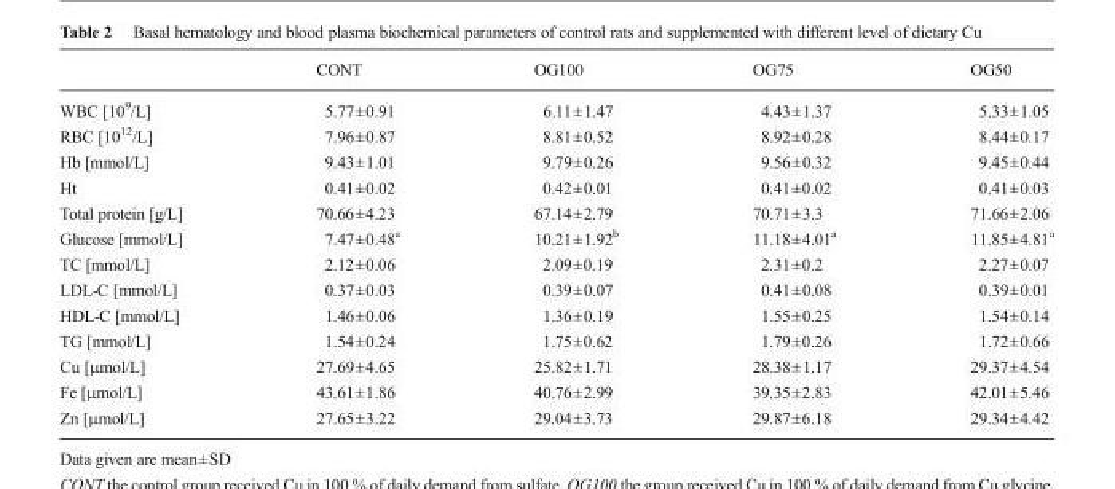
<table><thead><tr><td></td><td>CONT</td><td>OG100</td><td>OG75</td><td>OG50</td></tr></thead><tbody><tr><td>WBC [10<sup>9</sup>/L]</td><td>5.77±0.91</td><td>6.11±1.47</td><td>4.43±1.37</td><td>5.33±1.05</td></tr><tr><td>RBC [10<sup>12</sup>/L]</td><td>7.96±0.87</td><td>8.81±0.52</td><td>8.92±0.28</td><td>8.44±0.17</td></tr><tr><td>Hb [mmol/L]</td><td>9.43±1.01</td><td>9.79±0.26</td><td>9.56±0.32</td><td>9.45±0.44</td></tr><tr><td>Ht</td><td>0.41±0.02</td><td>0.42±0.01</td><td>0.41±0.02</td><td>0.41±0.03</td></tr><tr><td>Total protein [g/L]</td><td>70.66±4.23</td><td>67.14±2.79</td><td>70.71±3.3</td><td>71.66±2.06</td></tr><tr><td>Glucose [mmol/L]</td><td>7.47±0.48<sup>a</sup></td><td>10.21±1.92<sup>b</sup></td><td>11.18±4.01<sup>a</sup></td><td>11.85±4.81<sup>a</sup></td></tr><tr><td>TC [mmol/L]</td><td>2.12±0.06</td><td>2.09±0.19</td><td>2.31±0.2</td><td>2.27±0.07</td></tr><tr><td>LDL-C [mmol/L]</td><td>0.37±0.03</td><td>0.39±0.07</td><td>0.41±0.08</td><td>0.39±0.01</td></tr><tr><td>HDL-C [mmol/L]</td><td>1.46±0.06</td><td>1.36±0.19</td><td>1.55±0.25</td><td>1.54±0.14</td></tr><tr><td>TG [mmol/L]</td><td>1.54±0.24</td><td>1.75±0.62</td><td>1.79±0.26</td><td>1.72±0.66</td></tr><tr><td>Cu [μmol/L]</td><td>27.69±4.65</td><td>25.82±1.71</td><td>28.38±1.17</td><td>29.37±4.54</td></tr><tr><td>Fe [μmol/L]</td><td>43.61±1.86</td><td>40.76±2.99</td><td>39.35±2.83</td><td>42.01±5.46</td></tr><tr><td>Zn [μmol/L]</td><td>27.65±3.22</td><td>29.04±3.73</td><td>29.87±6.18</td><td>29.34±4.42</td></tr></tbody></table>